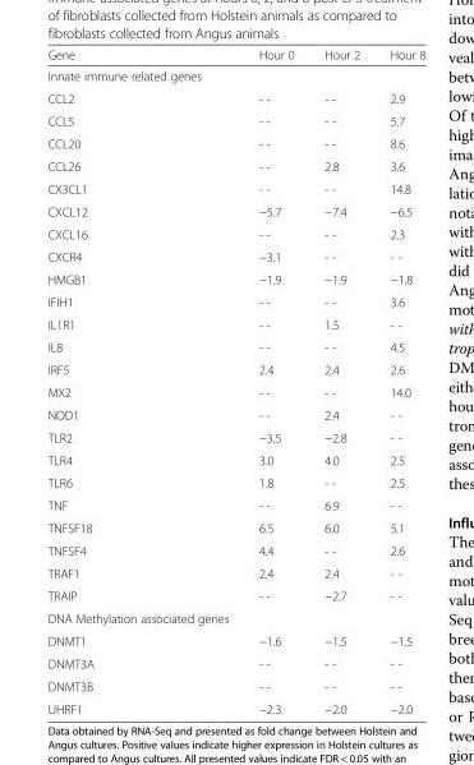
<table><thead><tr><td>Gene</td><td>Hour 0</td><td>Hour 2</td><td>Hour 8</td></tr></thead><tbody><tr><td colspan="4">Innate immune related genes</td></tr><tr><td>CCL2</td><td>- -</td><td>- -</td><td>2.9</td></tr><tr><td>CCL5</td><td>- -</td><td>- -</td><td>5.7</td></tr><tr><td>CCL20</td><td>- -</td><td>- -</td><td>8.6</td></tr><tr><td>CCL26</td><td>- -</td><td>2.8</td><td>3.6</td></tr><tr><td>CX3CL1</td><td>- -</td><td>- -</td><td>14.8</td></tr><tr><td>CXCL12</td><td>−5.7</td><td>−7.4</td><td>−6.5</td></tr><tr><td>CXCL16</td><td>- -</td><td>- -</td><td>2.3</td></tr><tr><td>CXCR4</td><td>−3.1</td><td>- -</td><td>- -</td></tr><tr><td>HMGB1</td><td>−1.9</td><td>−1.9</td><td>−1.8</td></tr><tr><td>IFIH1</td><td>- -</td><td>- -</td><td>3.6</td></tr><tr><td>IL1R1</td><td>- -</td><td>1.5</td><td>- -</td></tr><tr><td>IL8</td><td>- -</td><td>- -</td><td>4.5</td></tr><tr><td>IRF5</td><td>2.4</td><td>2.4</td><td>2.6</td></tr><tr><td>MX2</td><td>- -</td><td>- -</td><td>14.0</td></tr><tr><td>NOD1</td><td>- -</td><td>2.4</td><td>- -</td></tr><tr><td>TLR2</td><td>−3.5</td><td>−2.8</td><td>- -</td></tr><tr><td>TLR4</td><td>3.0</td><td>4.0</td><td>2.5</td></tr><tr><td>TLR6</td><td>1.8</td><td>- -</td><td>2.5</td></tr><tr><td>TNF</td><td>- -</td><td>6.9</td><td>- -</td></tr><tr><td>TNFSF18</td><td>6.5</td><td>6.0</td><td>5.1</td></tr><tr><td>TNFSF4</td><td>4.4</td><td>- -</td><td>2.6</td></tr><tr><td>TRAF1</td><td>2.4</td><td>2.4</td><td>- -</td></tr><tr><td>TRAIP</td><td>- -</td><td>−2.7</td><td>- -</td></tr><tr><td colspan="4">DNA Methylation associated genes</td></tr><tr><td>DNMT1</td><td>−1.6</td><td>−1.5</td><td>−1.5</td></tr><tr><td>DNMT3A</td><td>- -</td><td>- -</td><td>- -</td></tr><tr><td>DNMT3B</td><td>- -</td><td>- -</td><td>- -</td></tr><tr><td>UHRF1</td><td>−2.3</td><td>−2.0</td><td>−2.0</td></tr></tbody></table>